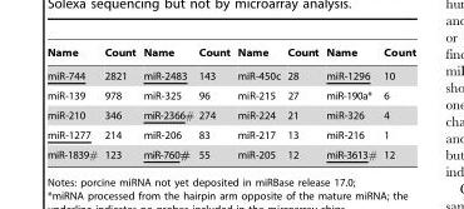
<table><thead><tr><td>Name</td><td>Count</td><td>Name</td><td>Count</td><td>Name</td><td>Count</td><td>Name</td><td>Count</td></tr></thead><tbody><tr><td>miR-744</td><td>2821</td><td>miR-2483</td><td>143</td><td>miR-450c</td><td>28</td><td>miR-1296</td><td>10</td></tr><tr><td>miR-139</td><td>978</td><td>miR-325</td><td>96</td><td>miR-215</td><td>27</td><td>miR-190a*</td><td>6</td></tr><tr><td>miR-210</td><td>346</td><td>miR-2366#</td><td>274</td><td>miR-224</td><td>21</td><td>miR-326</td><td>4</td></tr><tr><td>miR-1277</td><td>214</td><td>miR-206</td><td>83</td><td>miR-217</td><td>13</td><td>miR-216</td><td>1</td></tr><tr><td>miR-1839#</td><td>123</td><td>miR-760#</td><td>55</td><td>miR-205</td><td>12</td><td>miR-3613#</td><td>12</td></tr></tbody></table>